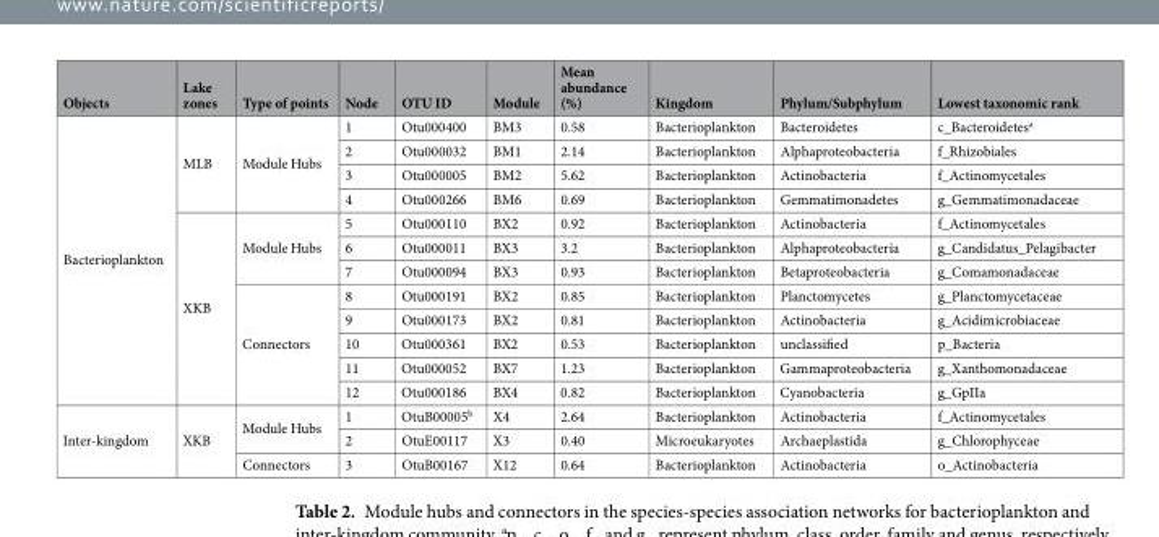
<table><thead><tr><td>Objects</td><td>Lake zones</td><td>Type of points</td><td>Node</td><td>OTU ID</td><td>Module</td><td>Mean abundance (%)</td><td>Kingdom</td><td>Phylum/Subphylum</td><td>Lowest taxonomic rank</td></tr></thead><tbody><tr><td rowspan="12">Bacterioplankton</td><td rowspan="4">MLB</td><td rowspan="4">Module Hubs</td><td>1</td><td>Otu000400</td><td>BM3</td><td>0.58</td><td>Bacterioplankton</td><td>Bacteroidetes</td><td>c_Bacteroidetes<sup>a</sup></td></tr><tr><td>2</td><td>Otu000032</td><td>BM1</td><td>2.14</td><td>Bacterioplankton</td><td>Alphaproteobacteria</td><td>f_Rhizobiales</td></tr><tr><td>3</td><td>Otu000005</td><td>BM2</td><td>5.62</td><td>Bacterioplankton</td><td>Actinobacteria</td><td>f_Actinomycetales</td></tr><tr><td>4</td><td>Otu000266</td><td>BM6</td><td>0.69</td><td>Bacterioplankton</td><td>Gemmatimonadetes</td><td>g_Gemmatimonadaceae</td></tr><tr><td rowspan="8">XKB</td><td rowspan="3">Module Hubs</td><td>5</td><td>Otu000110</td><td>BX2</td><td>0.92</td><td>Bacterioplankton</td><td>Actinobacteria</td><td>f_Actinomycetales</td></tr><tr><td>6</td><td>Otu000011</td><td>BX3</td><td>3.2</td><td>Bacterioplankton</td><td>Alphaproteobacteria</td><td>g_Candidatus_Pelagibacter</td></tr><tr><td>7</td><td>Otu000094</td><td>BX3</td><td>0.93</td><td>Bacterioplankton</td><td>Betaproteobacteria</td><td>g_Comamonadaceae</td></tr><tr><td rowspan="5">Connectors</td><td>8</td><td>Otu000191</td><td>BX2</td><td>0.85</td><td>Bacterioplankton</td><td>Planctomycetes</td><td>g_Planctomycetaceae</td></tr><tr><td>9</td><td>Otu000173</td><td>BX2</td><td>0.81</td><td>Bacterioplankton</td><td>Actinobacteria</td><td>g_Acidimicrobiaceae</td></tr><tr><td>10</td><td>Otu000361</td><td>BX2</td><td>0.53</td><td>Bacterioplankton</td><td>unclassified</td><td>p_Bacteria</td></tr><tr><td>11</td><td>Otu000052</td><td>BX7</td><td>1.23</td><td>Bacterioplankton</td><td>Gammaproteobacteria</td><td>g_Xanthomonadaceae</td></tr><tr><td>12</td><td>Otu000186</td><td>BX4</td><td>0.82</td><td>Bacterioplankton</td><td>Cyanobacteria</td><td>g_GpIIa</td></tr><tr><td rowspan="3">Inter-kingdom</td><td rowspan="3">XKB</td><td rowspan="2">Module Hubs</td><td>1</td><td>OtuB00005<sup>b</sup></td><td>X4</td><td>2.64</td><td>Bacterioplankton</td><td>Actinobacteria</td><td>f_Actinomycetales</td></tr><tr><td>2</td><td>OtuE00117</td><td>X3</td><td>0.40</td><td>Microeukaryotes</td><td>Archaeplastida</td><td>g_Chlorophyceae</td></tr><tr><td>Connectors</td><td>3</td><td>OtuB00167</td><td>X12</td><td>0.64</td><td>Bacterioplankton</td><td>Actinobacteria</td><td>o_Actinobacteria</td></tr></tbody></table>